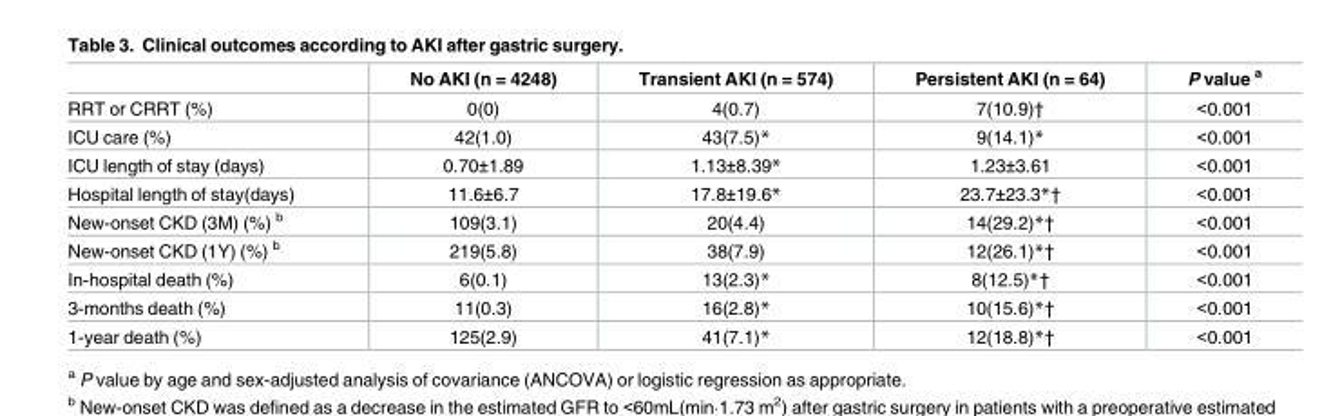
<table><thead><tr><td></td><td>No AKI (n = 4248)</td><td>Transient AKI (n = 574)</td><td>Persistent AKI (n = 64)</td><td>P value <sup>a</sup></td></tr></thead><tbody><tr><td>RRT or CRRT (%)</td><td>0(0)</td><td>4(0.7)</td><td>7(10.9)†</td><td>&lt;0.001</td></tr><tr><td>ICU care (%)</td><td>42(1.0)</td><td>43(7.5)*</td><td>9(14.1)*</td><td>&lt;0.001</td></tr><tr><td>ICU length of stay (days)</td><td>0.70±1.89</td><td>1.13±8.39*</td><td>1.23±3.61</td><td>&lt;0.001</td></tr><tr><td>Hospital length of stay(days)</td><td>11.6±6.7</td><td>17.8±19.6*</td><td>23.7±23.3*†</td><td>&lt;0.001</td></tr><tr><td>New-onset CKD (3M) (%) <sup>b</sup></td><td>109(3.1)</td><td>20(4.4)</td><td>14(29.2)*†</td><td>&lt;0.001</td></tr><tr><td>New-onset CKD (1Y) (%) <sup>b</sup></td><td>219(5.8)</td><td>38(7.9)</td><td>12(26.1)*†</td><td>&lt;0.001</td></tr><tr><td>In-hospital death (%)</td><td>6(0.1)</td><td>13(2.3)*</td><td>8(12.5)*†</td><td>&lt;0.001</td></tr><tr><td>3-months death (%)</td><td>11(0.3)</td><td>16(2.8)*</td><td>10(15.6)*†</td><td>&lt;0.001</td></tr><tr><td>1-year death (%)</td><td>125(2.9)</td><td>41(7.1)*</td><td>12(18.8)*†</td><td>&lt;0.001</td></tr></tbody></table>